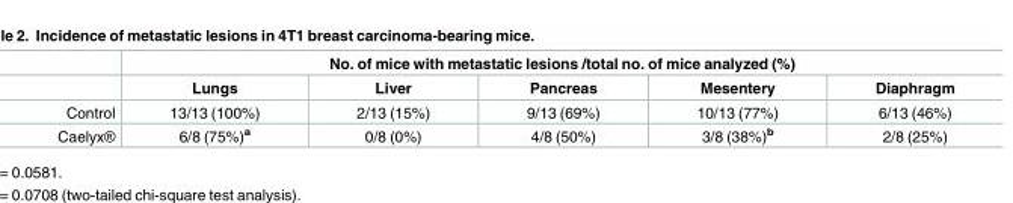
<table><thead><tr><td rowspan="2"></td><td colspan="5">No. of mice with metastatic lesions /total no. of mice analyzed (%)</td></tr><tr><td>Lungs</td><td>Liver</td><td>Pancreas</td><td>Mesentery</td><td>Diaphragm</td></tr></thead><tbody><tr><td>Control</td><td>13/13 (100%)</td><td>2/13 (15%)</td><td>9/13 (69%)</td><td>10/13 (77%)</td><td>6/13 (46%)</td></tr><tr><td>Caelyx®</td><td>6/8 (75%)<sup>a</sup></td><td>0/8 (0%)</td><td>4/8 (50%)</td><td>3/8 (38%)<sup>b</sup></td><td>2/8 (25%)</td></tr></tbody></table>